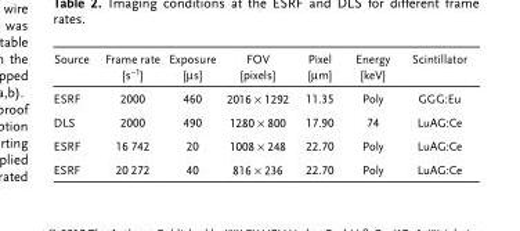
<table><thead><tr><td>Source</td><td>Frame rate [s<sup>−1</sup>]</td><td>Exposure [µs]</td><td>FOV [pixels]</td><td>Pixel [µm]</td><td>Energy [keV]</td><td>Scintillator</td></tr></thead><tbody><tr><td>ESRF</td><td>2000</td><td>460</td><td>2016 × 1292</td><td>11.35</td><td>Poly</td><td>GGG:Eu</td></tr><tr><td>DLS</td><td>2000</td><td>490</td><td>1280 × 800</td><td>17.90</td><td>74</td><td>LuAG:Ce</td></tr><tr><td>ESRF</td><td>16 742</td><td>20</td><td>1008 × 248</td><td>22.70</td><td>Poly</td><td>LuAG:Ce</td></tr><tr><td>ESRF</td><td>20 272</td><td>40</td><td>816 × 236</td><td>22.70</td><td>Poly</td><td>LuAG:Ce</td></tr></tbody></table>